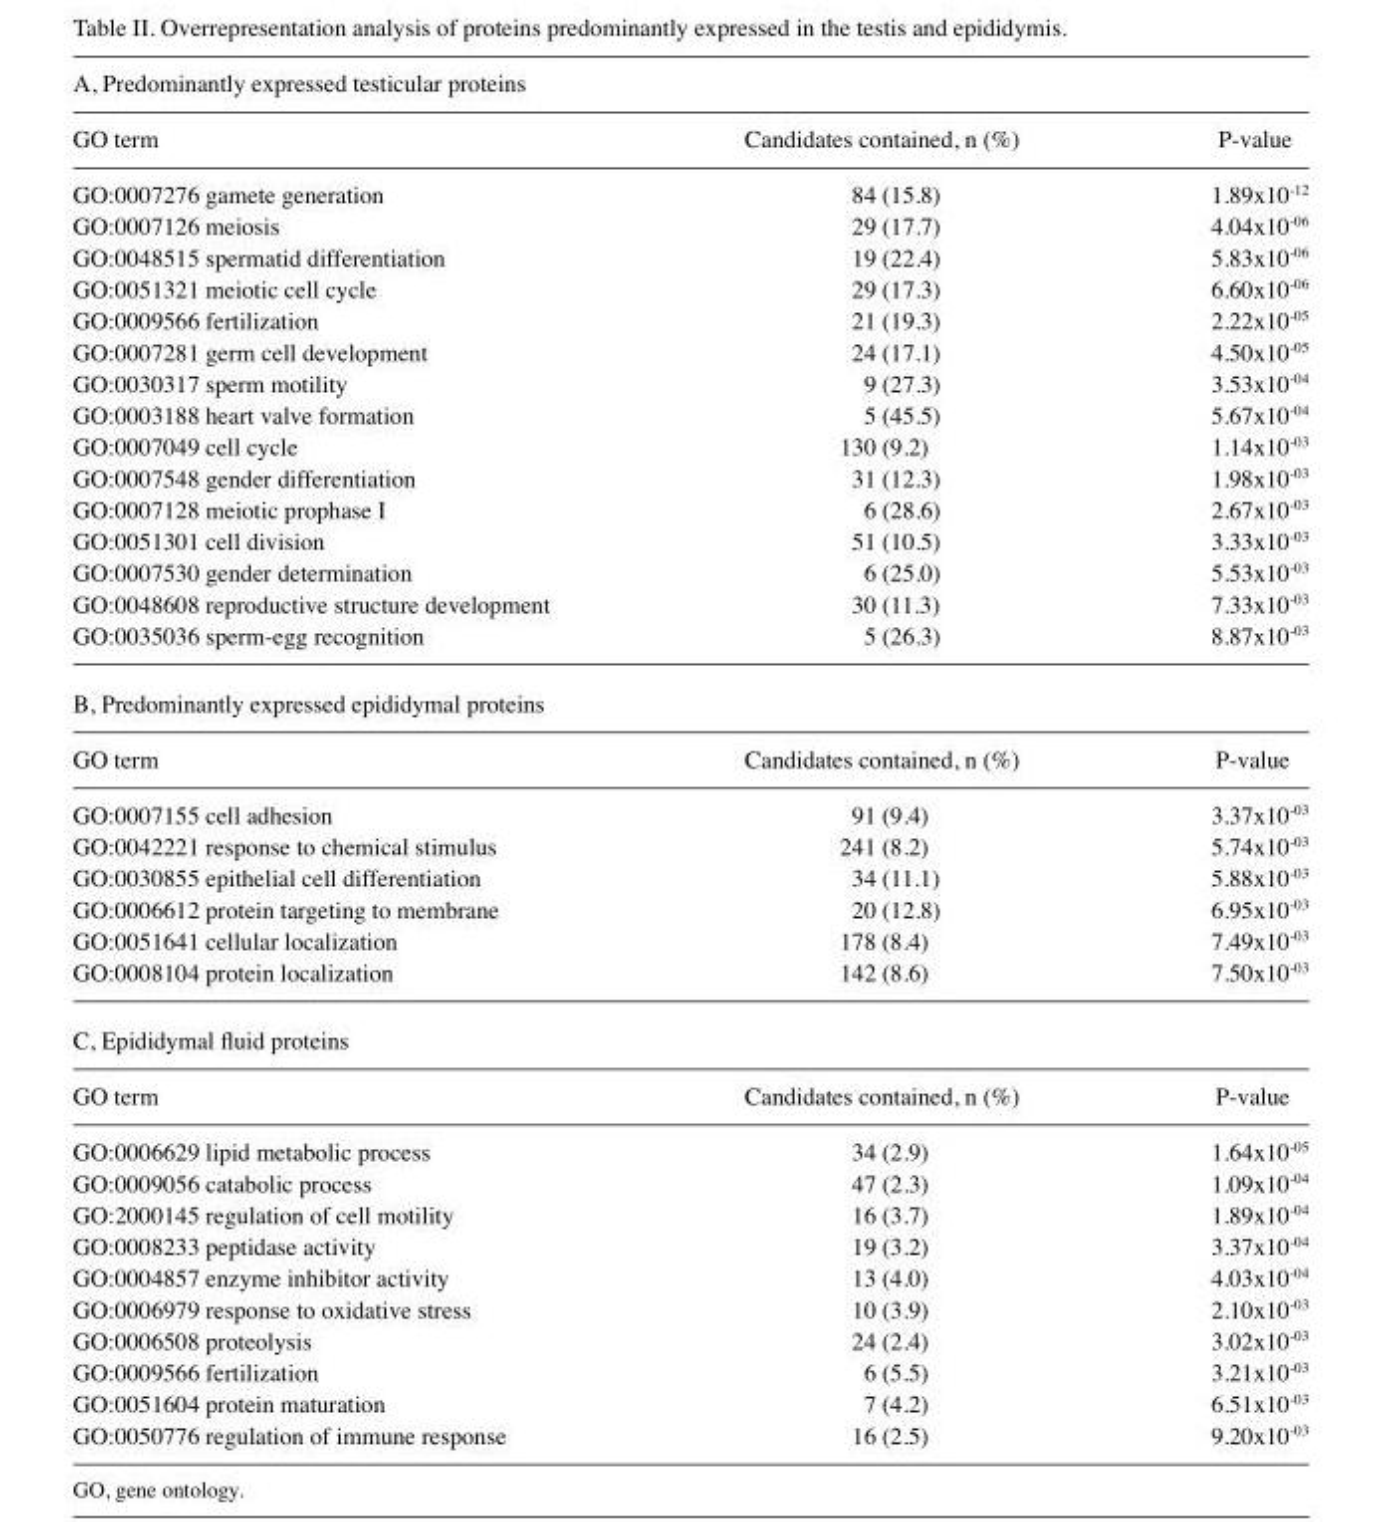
<table><thead><tr><td colspan="3">A, Predominantly expressed testicular proteins</td></tr><tr><td>GO term</td><td>Candidates contained, n (%)</td><td>P‑value</td></tr></thead><tbody><tr><td>GO:0007276 gamete generation</td><td>84 (15.8)</td><td>1.89x10-12</td></tr><tr><td>GO:0007126 meiosis</td><td>29 (17.7)</td><td>4.04x10-06</td></tr><tr><td>GO:0048515 spermatid differentiation</td><td>19 (22.4)</td><td>5.83x10-06</td></tr><tr><td>GO:0051321 meiotic cell cycle</td><td>29 (17.3)</td><td>6.60x10-06</td></tr><tr><td>GO:0009566 fertilization</td><td>21 (19.3)</td><td>2.22x10-05</td></tr><tr><td>GO:0007281 germ cell development</td><td>24 (17.1)</td><td>4.50x10-05</td></tr><tr><td>GO:0030317 sperm motility</td><td>9 (27.3)</td><td>3.53x10-04</td></tr><tr><td>GO:0003188 heart valve formation</td><td>5 (45.5)</td><td>5.67x10-04</td></tr><tr><td>GO:0007049 cell cycle</td><td>130 (9.2)</td><td>1.14x10-03</td></tr><tr><td>GO:0007548 gender differentiation</td><td>31 (12.3)</td><td>1.98x10-03</td></tr><tr><td>GO:0007128 meiotic prophase I</td><td>6 (28.6)</td><td>2.67x10-03</td></tr><tr><td>GO:0051301 cell division</td><td>51 (10.5)</td><td>3.33x10-03</td></tr><tr><td>GO:0007530 gender determination</td><td>6 (25.0)</td><td>5.53x10-03</td></tr><tr><td>GO:0048608 reproductive structure development</td><td>30 (11.3)</td><td>7.33x10-03</td></tr><tr><td>GO:0035036 sperm‑egg recognition</td><td>5 (26.3)</td><td>8.87x10-03</td></tr><tr><td colspan="3">B, Predominantly expressed epididymal proteins</td></tr><tr><td>GO term</td><td>Candidates contained, n (%)</td><td>P‑value</td></tr><tr><td>GO:0007155 cell adhesion</td><td>91 (9.4)</td><td>3.37x10-03</td></tr><tr><td>GO:0042221 response to chemical stimulus</td><td>241 (8.2)</td><td>5.74x10-03</td></tr><tr><td>GO:0030855 epithelial cell differentiation</td><td>34 (11.1)</td><td>5.88x10-03</td></tr><tr><td>GO:0006612 protein targeting to membrane</td><td>20 (12.8)</td><td>6.95x10-03</td></tr><tr><td>GO:0051641 cellular localization</td><td>178 (8.4)</td><td>7.49x10-03</td></tr><tr><td>GO:0008104 protein localization</td><td>142 (8.6)</td><td>7.50x10-03</td></tr><tr><td colspan="3">C, Epididymal fluid proteins</td></tr><tr><td>GO term</td><td>Candidates contained, n (%)</td><td>P‑value</td></tr><tr><td>GO:0006629 lipid metabolic process</td><td>34 (2.9)</td><td>1.64x10-05</td></tr><tr><td>GO:0009056 catabolic process</td><td>47 (2.3)</td><td>1.09x10-04</td></tr><tr><td>GO:2000145 regulation of cell motility</td><td>16 (3.7)</td><td>1.89x10-04</td></tr><tr><td>GO:0008233 peptidase activity</td><td>19 (3.2)</td><td>3.37x10-04</td></tr><tr><td>GO:0004857 enzyme inhibitor activity</td><td>13 (4.0)</td><td>4.03x10-04</td></tr><tr><td>GO:0006979 response to oxidative stress</td><td>10 (3.9)</td><td>2.10x10-03</td></tr><tr><td>GO:0006508 proteolysis</td><td>24 (2.4)</td><td>3.02x10-03</td></tr><tr><td>GO:0009566 fertilization</td><td>6 (5.5)</td><td>3.21x10-03</td></tr><tr><td>GO:0051604 protein maturation</td><td>7 (4.2)</td><td>6.51x10-03</td></tr><tr><td>GO:0050776 regulation of immune response</td><td>16 (2.5)</td><td>9.20x10-03</td></tr></tbody></table>